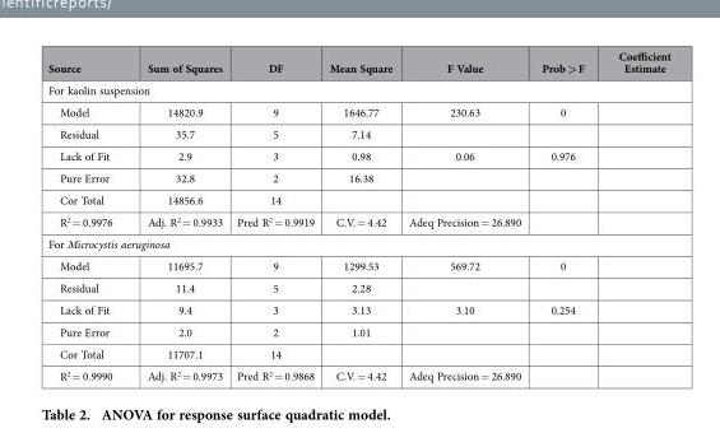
<table><thead><tr><td>Source</td><td>Sum of Squares</td><td>DF</td><td>Mean Square</td><td>F Value</td><td>Prob &gt; F</td><td>Coefficient Estimate</td></tr></thead><tbody><tr><td colspan="7">For kaolin suspension</td></tr><tr><td>Model</td><td>14820.9</td><td>9</td><td>1646.77</td><td>230.63</td><td>0</td><td></td></tr><tr><td>Residual</td><td>35.7</td><td>5</td><td>7.14</td><td></td><td></td><td></td></tr><tr><td>Lack of Fit</td><td>2.9</td><td>3</td><td>0.98</td><td>0.06</td><td>0.976</td><td></td></tr><tr><td>Pure Error</td><td>32.8</td><td>2</td><td>16.38</td><td></td><td></td><td></td></tr><tr><td>Cor Total</td><td>14856.6</td><td>14</td><td></td><td></td><td></td><td></td></tr><tr><td>R<sup>2</sup> = 0.9976</td><td>Adj. R<sup>2</sup> = 0.9933</td><td>Pred R<sup>2</sup> = 0.9919</td><td>C.V. = 4.42</td><td>Adeq Precision = 26.890</td><td></td><td></td></tr><tr><td colspan="7">For Microcystis aeruginosa</td></tr><tr><td>Model</td><td>11695.7</td><td>9</td><td>1299.53</td><td>569.72</td><td>0</td><td></td></tr><tr><td>Residual</td><td>11.4</td><td>5</td><td>2.28</td><td></td><td></td><td></td></tr><tr><td>Lack of Fit</td><td>9.4</td><td>3</td><td>3.13</td><td>3.10</td><td>0.254</td><td></td></tr><tr><td>Pure Error</td><td>2.0</td><td>2</td><td>1.01</td><td></td><td></td><td></td></tr><tr><td>Cor Total</td><td>11707.1</td><td>14</td><td></td><td></td><td></td><td></td></tr><tr><td>R<sup>2</sup> = 0.9990</td><td>Adj. R<sup>2</sup> = 0.9973</td><td>Pred R<sup>2</sup> = 0.9868</td><td>C.V. = 4.42</td><td>Adeq Precision = 26.890</td><td></td><td></td></tr></tbody></table>